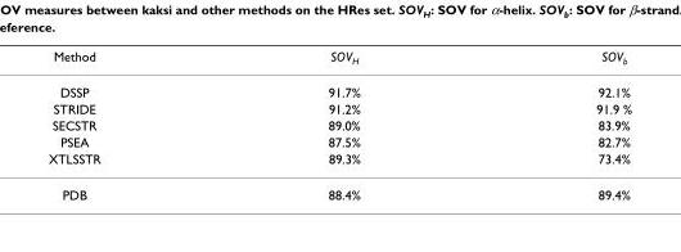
<table><thead><tr><td>Method</td><td>SOVH</td><td>SOVb</td></tr></thead><tbody><tr><td>DSSP</td><td>91.7%</td><td>92.1%</td></tr><tr><td>STRIDE</td><td>91.2%</td><td>91.9 %</td></tr><tr><td>SECSTR</td><td>89.0%</td><td>83.9%</td></tr><tr><td>PSEA</td><td>87.5%</td><td>82.7%</td></tr><tr><td>XTLSSTR</td><td>89.3%</td><td>73.4%</td></tr><tr><td>PDB</td><td>88.4%</td><td>89.4%</td></tr></tbody></table>